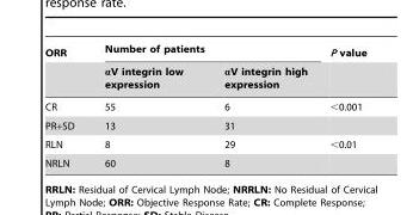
<table><thead><tr><td rowspan="2">ORR</td><td colspan="2">Number of patients</td><td rowspan="2">P value</td></tr><tr><td>αV integrin low expression</td><td>αV integrin high expression</td></tr></thead><tbody><tr><td>CR</td><td>55</td><td>6</td><td>&lt;0.001</td></tr><tr><td>PR+SD</td><td>13</td><td>31</td><td></td></tr><tr><td>RLN</td><td>8</td><td>29</td><td>&lt;0.01</td></tr><tr><td>NRLN</td><td>60</td><td>8</td><td></td></tr></tbody></table>